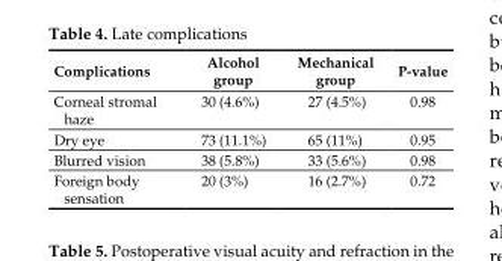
<table><thead><tr><td>Complications</td><td>Alcohol group</td><td>Mechanical group</td><td>P-value</td></tr></thead><tbody><tr><td>Corneal stromal haze</td><td>30 (4.6%)</td><td>27 (4.5%)</td><td>0.98</td></tr><tr><td>Dry eye</td><td>73 (11.1%)</td><td>65 (11%)</td><td>0.95</td></tr><tr><td>Blurred vision</td><td>38 (5.8%)</td><td>33 (5.6%)</td><td>0.98</td></tr><tr><td>Foreign body sensation</td><td>20 (3%)</td><td>16 (2.7%)</td><td>0.72</td></tr></tbody></table>